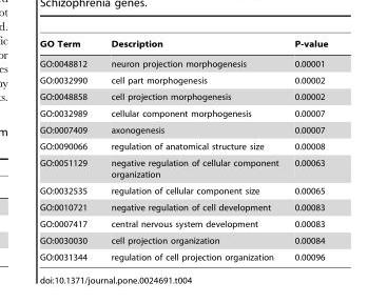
<table><thead><tr><td>GO Term</td><td>Description</td><td>P-value</td></tr></thead><tbody><tr><td>GO:0048812</td><td>neuron projection morphogenesis</td><td>0.00001</td></tr><tr><td>GO:0032990</td><td>cell part morphogenesis</td><td>0.00002</td></tr><tr><td>GO:0048858</td><td>cell projection morphogenesis</td><td>0.00002</td></tr><tr><td>GO:0032989</td><td>cellular component morphogenesis</td><td>0.00007</td></tr><tr><td>GO:0007409</td><td>axonogenesis</td><td>0.00007</td></tr><tr><td>GO:0090066</td><td>regulation of anatomical structure size</td><td>0.00008</td></tr><tr><td>GO:0051129</td><td>negative regulation of cellular component organization</td><td>0.00063</td></tr><tr><td>GO:0032535</td><td>regulation of cellular component size</td><td>0.00065</td></tr><tr><td>GO:0010721</td><td>negative regulation of cell development</td><td>0.00083</td></tr><tr><td>GO:0007417</td><td>central nervous system development</td><td>0.00083</td></tr><tr><td>GO:0030030</td><td>cell projection organization</td><td>0.00084</td></tr><tr><td>GO:0031344</td><td>regulation of cell projection organization</td><td>0.00096</td></tr></tbody></table>